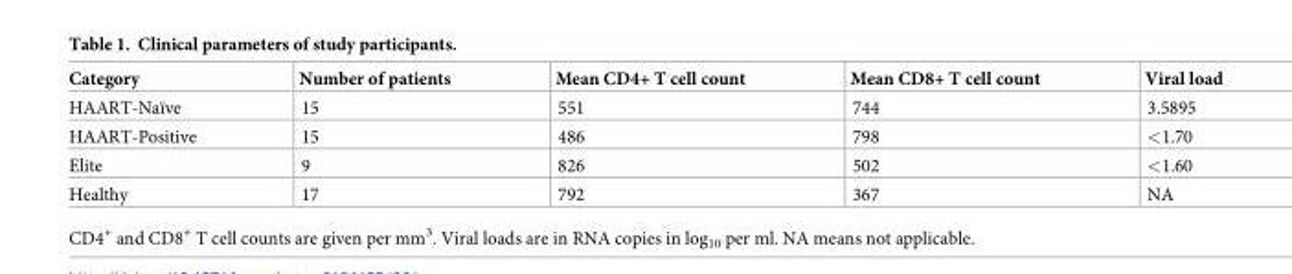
<table><thead><tr><td>Category</td><td>Number of patients</td><td>Mean CD4+ T cell count</td><td>Mean CD8+ T cell count</td><td>Viral load</td></tr></thead><tbody><tr><td>HAART-Naïve</td><td>15</td><td>551</td><td>744</td><td>3.5895</td></tr><tr><td>HAART-Positive</td><td>15</td><td>486</td><td>798</td><td>&lt;1.70</td></tr><tr><td>Elite</td><td>9</td><td>826</td><td>502</td><td>&lt;1.60</td></tr><tr><td>Healthy</td><td>17</td><td>792</td><td>367</td><td>NA</td></tr></tbody></table>